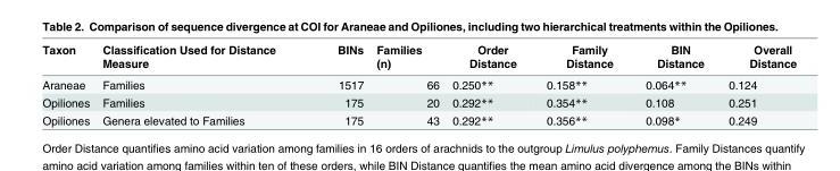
<table><thead><tr><td>Taxon</td><td>Classification Used for Distance Measure</td><td>BINs</td><td>Families (n)</td><td>Order Distance</td><td>Family Distance</td><td>BIN Distance</td><td>Overall Distance</td></tr></thead><tbody><tr><td>Araneae</td><td>Families</td><td>1517</td><td>66</td><td>0.250**</td><td>0.158**</td><td>0.064**</td><td>0.124</td></tr><tr><td>Opiliones</td><td>Families</td><td>175</td><td>20</td><td>0.292**</td><td>0.354**</td><td>0.108</td><td>0.251</td></tr><tr><td>Opiliones</td><td>Genera elevated to Families</td><td>175</td><td>43</td><td>0.292**</td><td>0.356**</td><td>0.098*</td><td>0.249</td></tr></tbody></table>